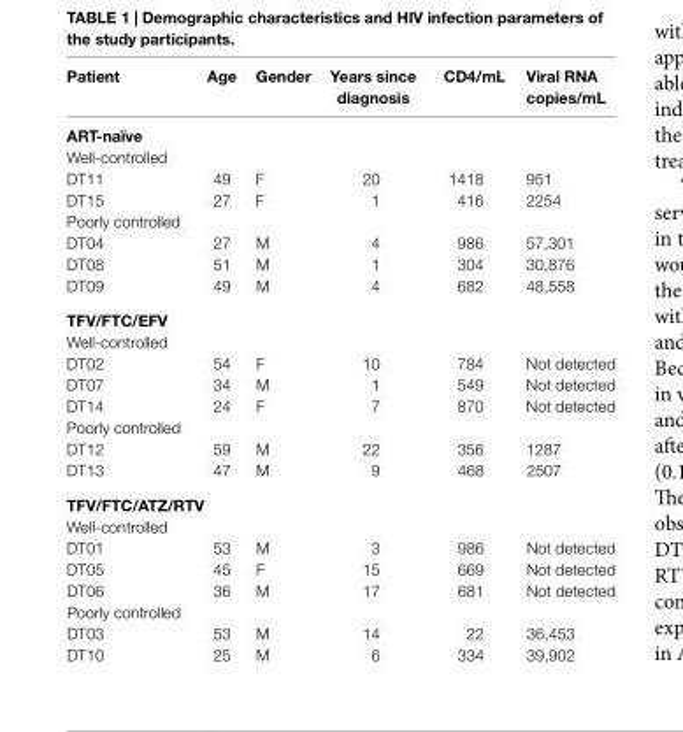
<table><thead><tr><td>Patient</td><td>age</td><td>gender</td><td>Years since diagnosis</td><td>cD4/ml</td><td>Viral rna copies/ml</td></tr></thead><tbody><tr><td colspan="6">arT-naïve</td></tr><tr><td colspan="6">Well-controlled</td></tr><tr><td>DT11</td><td>49</td><td>F</td><td>20</td><td>1418</td><td>951</td></tr><tr><td>DT15</td><td>27</td><td>F</td><td>1</td><td>416</td><td>2254</td></tr><tr><td colspan="6">Poorly controlled</td></tr><tr><td>DT04</td><td>27</td><td>M</td><td>4</td><td>986</td><td>57,301</td></tr><tr><td>DT08</td><td>51</td><td>M</td><td>1</td><td>304</td><td>30,876</td></tr><tr><td>DT09</td><td>49</td><td>M</td><td>4</td><td>682</td><td>48,558</td></tr><tr><td colspan="6">TFV/FTc/eFV</td></tr><tr><td colspan="6">Well-controlled</td></tr><tr><td>DT02</td><td>54</td><td>F</td><td>10</td><td>784</td><td>Not detected</td></tr><tr><td>DT07</td><td>34</td><td>M</td><td>1</td><td>549</td><td>Not detected</td></tr><tr><td>DT14</td><td>24</td><td>F</td><td>7</td><td>870</td><td>Not detected</td></tr><tr><td colspan="6">Poorly controlled</td></tr><tr><td>DT12</td><td>59</td><td>M</td><td>22</td><td>356</td><td>1287</td></tr><tr><td>DT13</td><td>47</td><td>M</td><td>9</td><td>468</td><td>2507</td></tr><tr><td colspan="6">TFV/FTc/aTZ/rTV</td></tr><tr><td colspan="6">Well-controlled</td></tr><tr><td>DT01</td><td>53</td><td>M</td><td>3</td><td>986</td><td>Not detected</td></tr><tr><td>DT05</td><td>45</td><td>F</td><td>15</td><td>669</td><td>Not detected</td></tr><tr><td>DT06</td><td>36</td><td>M</td><td>17</td><td>681</td><td>Not detected</td></tr><tr><td colspan="6">Poorly controlled</td></tr><tr><td>DT03</td><td>53</td><td>M</td><td>14</td><td>22</td><td>36,453</td></tr><tr><td>DT10</td><td>25</td><td>M</td><td>6</td><td>334</td><td>39,902</td></tr></tbody></table>